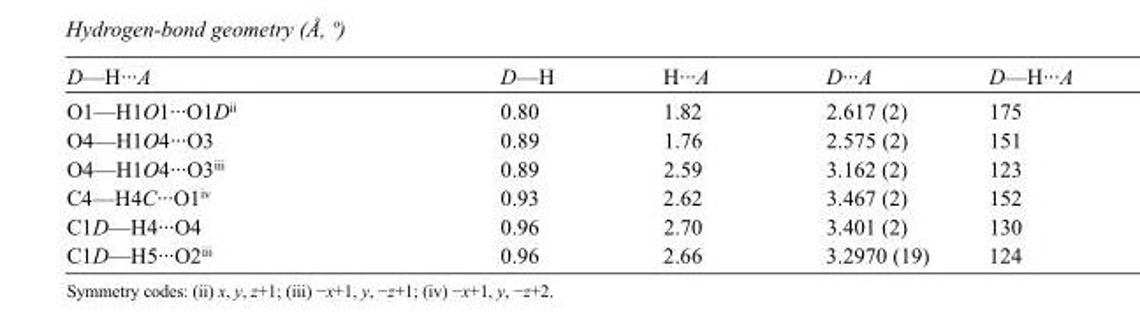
<table><tbody><tr><td>D—H···A</td><td>D—H</td><td>H···A</td><td>D···A</td><td>D—H···A</td></tr><tr><td>O1—H1O1···O1D<sup>ii</sup></td><td>0.80</td><td>1.82</td><td>2.617 (2)</td><td>175</td></tr><tr><td>O4—H1O4···O3</td><td>0.89</td><td>1.76</td><td>2.575 (2)</td><td>151</td></tr><tr><td>O4—H1O4···O3<sup>iii</sup></td><td>0.89</td><td>2.59</td><td>3.162 (2)</td><td>123</td></tr><tr><td>C4—H4C···O1<sup>iv</sup></td><td>0.93</td><td>2.62</td><td>3.467 (2)</td><td>152</td></tr><tr><td>C1D—H4···O4</td><td>0.96</td><td>2.70</td><td>3.401 (2)</td><td>130</td></tr><tr><td>C1D—H5···O2<sup>iii</sup></td><td>0.96</td><td>2.66</td><td>3.2970 (19)</td><td>124</td></tr></tbody></table>